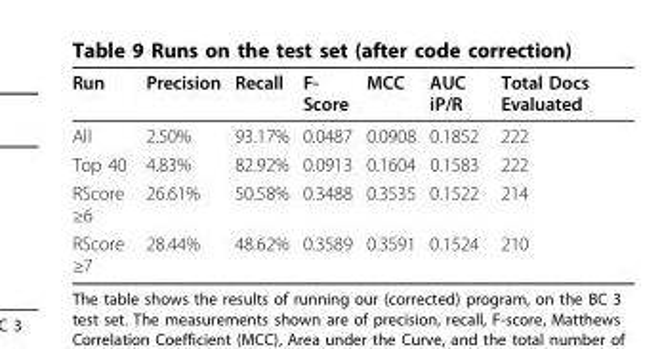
<table><thead><tr><td>Run</td><td>Precision</td><td>Recall</td><td>F- Score</td><td>MCC</td><td>AUC iP/R</td><td>Total Docs Evaluated</td></tr></thead><tbody><tr><td>All</td><td>2.50%</td><td>93.17%</td><td>0.0487</td><td>0.0908</td><td>0.1852</td><td>222</td></tr><tr><td>Top 40</td><td>4.83%</td><td>82.92%</td><td>0.0913</td><td>0.1604</td><td>0.1583</td><td>222</td></tr><tr><td>RScore ≥6</td><td>26.61%</td><td>50.58%</td><td>0.3488</td><td>0.3535</td><td>0.1522</td><td>214</td></tr><tr><td>RScore ≥7</td><td>28.44%</td><td>48.62%</td><td>0.3589</td><td>0.3591</td><td>0.1524</td><td>210</td></tr></tbody></table>